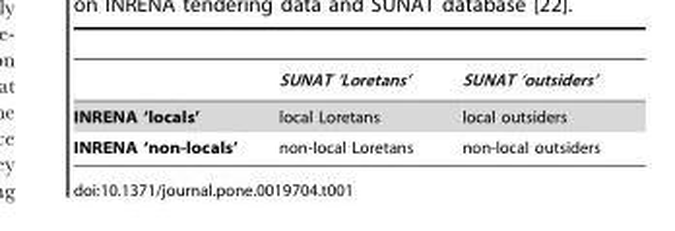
<table><thead><tr><td></td><td>SUNAT ‘Loretans’</td><td>SUNAT ‘outsiders’</td></tr></thead><tbody><tr><td>INRENA ‘locals’</td><td>local Loretans</td><td>local outsiders</td></tr><tr><td>INRENA ‘non-locals’</td><td>non-local Loretans</td><td>non-local outsiders</td></tr></tbody></table>